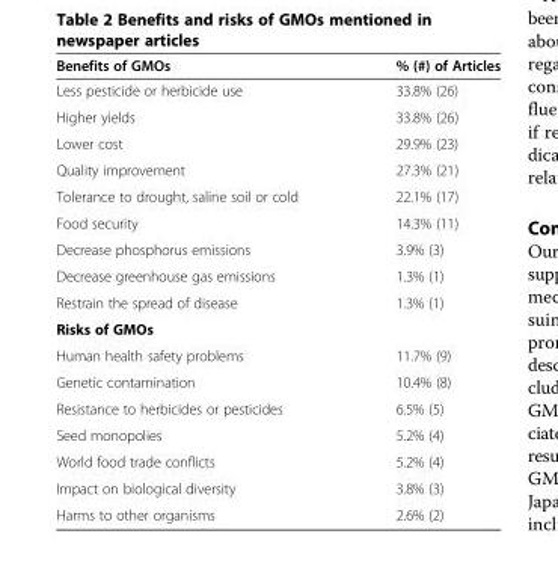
<table><thead><tr><td>Benefits of GMOs</td><td>% (#) of Articles</td></tr></thead><tbody><tr><td>Less pesticide or herbicide use</td><td>33.8% (26)</td></tr><tr><td>Higher yields</td><td>33.8% (26)</td></tr><tr><td>Lower cost</td><td>29.9% (23)</td></tr><tr><td>Quality improvement</td><td>27.3% (21)</td></tr><tr><td>Tolerance to drought, saline soil or cold</td><td>22.1% (17)</td></tr><tr><td>Food security</td><td>14.3% (11)</td></tr><tr><td>Decrease phosphorus emissions</td><td>3.9% (3)</td></tr><tr><td>Decrease greenhouse gas emissions</td><td>1.3% (1)</td></tr><tr><td>Restrain the spread of disease</td><td>1.3% (1)</td></tr><tr><td colspan="2">Risks of GMOs</td></tr><tr><td>Human health safety problems</td><td>11.7% (9)</td></tr><tr><td>Genetic contamination</td><td>10.4% (8)</td></tr><tr><td>Resistance to herbicides or pesticides</td><td>6.5% (5)</td></tr><tr><td>Seed monopolies</td><td>5.2% (4)</td></tr><tr><td>World food trade conflicts</td><td>5.2% (4)</td></tr><tr><td>Impact on biological diversity</td><td>3.8% (3)</td></tr><tr><td>Harms to other organisms</td><td>2.6% (2)</td></tr></tbody></table>